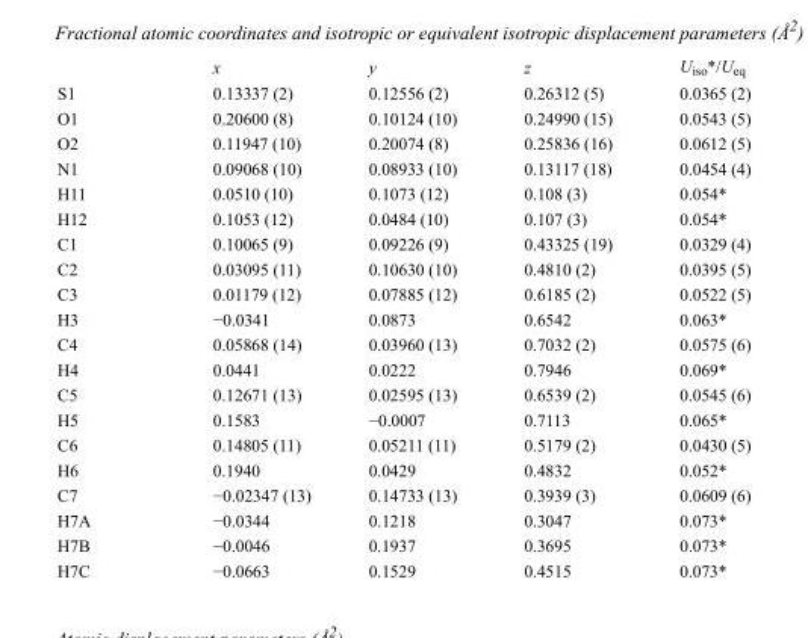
<table><thead><tr><td></td><td>x</td><td>y</td><td>z</td><td>U<sub>iso</sub>*/U<sub>eq</sub></td></tr></thead><tbody><tr><td>S1</td><td>0.13337 (2)</td><td>0.12556 (2)</td><td>0.26312 (5)</td><td>0.0365 (2)</td></tr><tr><td>O1</td><td>0.20600 (8)</td><td>0.10124 (10)</td><td>0.24990 (15)</td><td>0.0543 (5)</td></tr><tr><td>O2</td><td>0.11947 (10)</td><td>0.20074 (8)</td><td>0.25836 (16)</td><td>0.0612 (5)</td></tr><tr><td>N1</td><td>0.09068 (10)</td><td>0.08933 (10)</td><td>0.13117 (18)</td><td>0.0454 (4)</td></tr><tr><td>H11</td><td>0.0510 (10)</td><td>0.1073 (12)</td><td>0.108 (3)</td><td>0.054*</td></tr><tr><td>H12</td><td>0.1053 (12)</td><td>0.0484 (10)</td><td>0.107 (3)</td><td>0.054*</td></tr><tr><td>C1</td><td>0.10065 (9)</td><td>0.09226 (9)</td><td>0.43325 (19)</td><td>0.0329 (4)</td></tr><tr><td>C2</td><td>0.03095 (11)</td><td>0.10630 (10)</td><td>0.4810 (2)</td><td>0.0395 (5)</td></tr><tr><td>C3</td><td>0.01179 (12)</td><td>0.07885 (12)</td><td>0.6185 (2)</td><td>0.0522 (5)</td></tr><tr><td>H3</td><td>−0.0341</td><td>0.0873</td><td>0.6542</td><td>0.063*</td></tr><tr><td>C4</td><td>0.05868 (14)</td><td>0.03960 (13)</td><td>0.7032 (2)</td><td>0.0575 (6)</td></tr><tr><td>H4</td><td>0.0441</td><td>0.0222</td><td>0.7946</td><td>0.069*</td></tr><tr><td>C5</td><td>0.12671 (13)</td><td>0.02595 (13)</td><td>0.6539 (2)</td><td>0.0545 (6)</td></tr><tr><td>H5</td><td>0.1583</td><td>−0.0007</td><td>0.7113</td><td>0.065*</td></tr><tr><td>C6</td><td>0.14805 (11)</td><td>0.05211 (11)</td><td>0.5179 (2)</td><td>0.0430 (5)</td></tr><tr><td>H6</td><td>0.1940</td><td>0.0429</td><td>0.4832</td><td>0.052*</td></tr><tr><td>C7</td><td>−0.02347 (13)</td><td>0.14733 (13)</td><td>0.3939 (3)</td><td>0.0609 (6)</td></tr><tr><td>H7A</td><td>−0.0344</td><td>0.1218</td><td>0.3047</td><td>0.073*</td></tr><tr><td>H7B</td><td>−0.0046</td><td>0.1937</td><td>0.3695</td><td>0.073*</td></tr><tr><td>H7C</td><td>−0.0663</td><td>0.1529</td><td>0.4515</td><td>0.073*</td></tr></tbody></table>